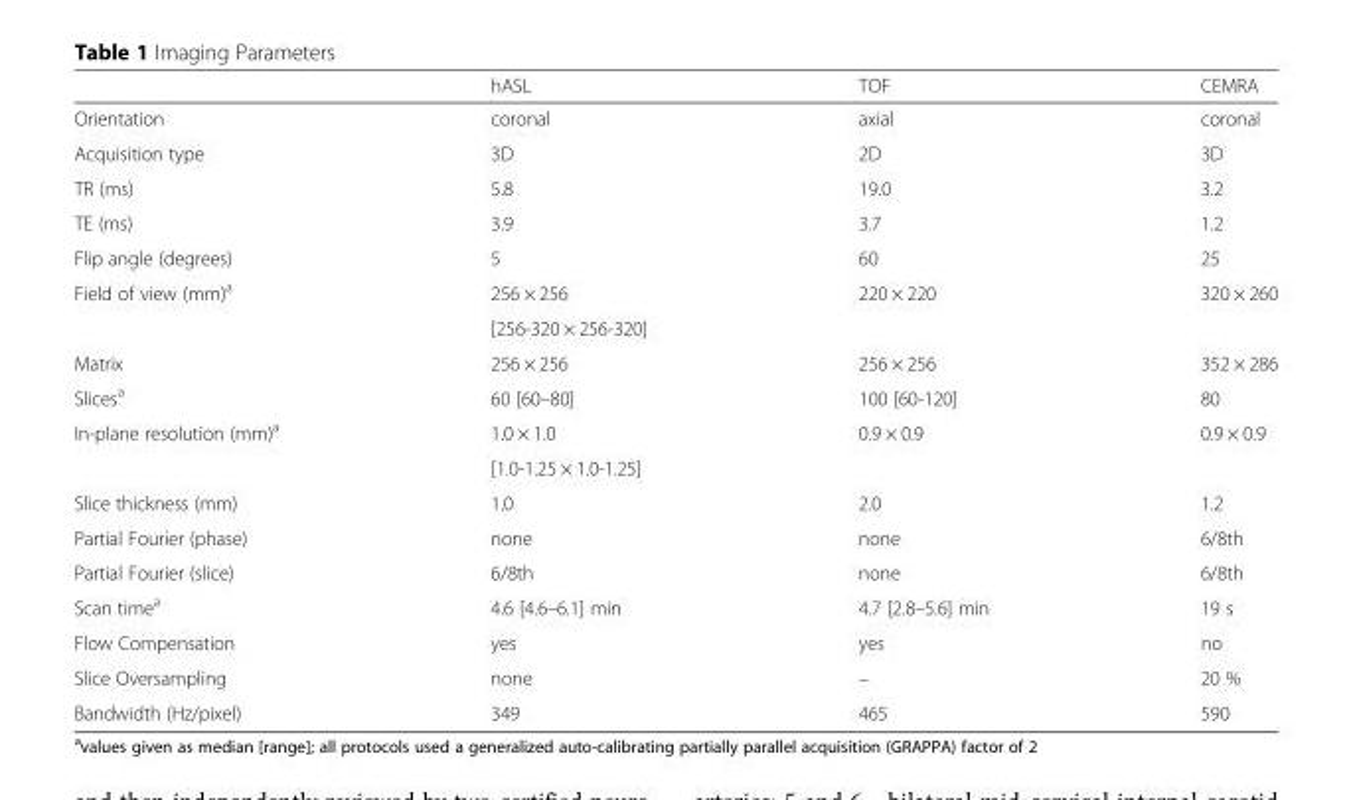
<table><thead><tr><td></td><td>hASL</td><td>TOF</td><td>CEMRA</td></tr></thead><tbody><tr><td>Orientation</td><td>coronal</td><td>axial</td><td>coronal</td></tr><tr><td>Acquisition type</td><td>3D</td><td>2D</td><td>3D</td></tr><tr><td>TR (ms)</td><td>5.8</td><td>19.0</td><td>3.2</td></tr><tr><td>TE (ms)</td><td>3.9</td><td>3.7</td><td>1.2</td></tr><tr><td>Flip angle (degrees)</td><td>5</td><td>60</td><td>25</td></tr><tr><td rowspan="2">Field of view (mm)<sup>a</sup></td><td>256 × 256</td><td rowspan="2">220 × 220</td><td rowspan="2">320 × 260</td></tr><tr><td>[256-320 × 256-320]</td></tr><tr><td>Matrix</td><td>256 × 256</td><td>256 × 256</td><td>352 × 286</td></tr><tr><td>Slices<sup>a</sup></td><td>60 [60–80]</td><td>100 [60-120]</td><td>80</td></tr><tr><td rowspan="2">In-plane resolution (mm)<sup>a</sup></td><td>1.0 × 1.0</td><td rowspan="2">0.9 × 0.9</td><td rowspan="2">0.9 × 0.9</td></tr><tr><td>[1.0-1.25 × 1.0-1.25]</td></tr><tr><td>Slice thickness (mm)</td><td>1.0</td><td>2.0</td><td>1.2</td></tr><tr><td>Partial Fourier (phase)</td><td>none</td><td>none</td><td>6/8th</td></tr><tr><td>Partial Fourier (slice)</td><td>6/8th</td><td>none</td><td>6/8th</td></tr><tr><td>Scan time<sup>a</sup></td><td>4.6 [4.6–6.1] min</td><td>4.7 [2.8–5.6] min</td><td>19 s</td></tr><tr><td>Flow Compensation</td><td>yes</td><td>yes</td><td>no</td></tr><tr><td>Slice Oversampling</td><td>none</td><td>–</td><td>20 %</td></tr><tr><td>Bandwidth (Hz/pixel)</td><td>349</td><td>465</td><td>590</td></tr></tbody></table>